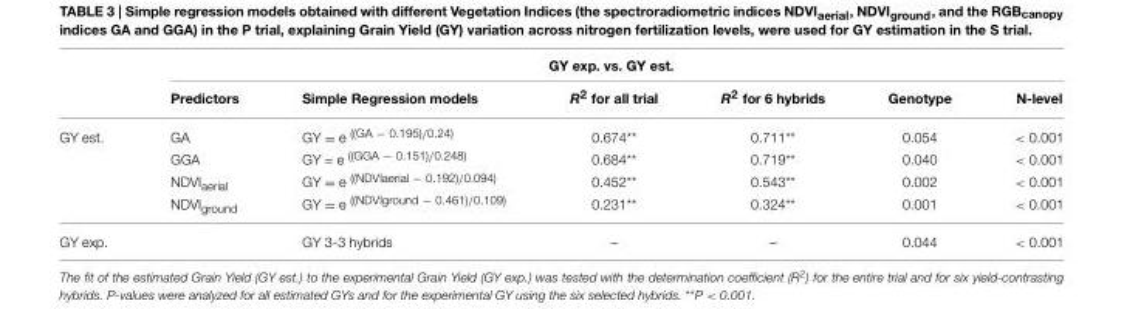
<table><thead><tr><td rowspan="2"></td><td colspan="6">GY exp. vs. GY est.</td></tr><tr><td>Predictors</td><td>Simple Regression models</td><td>R<sup>2</sup> for all trial</td><td>R<sup>2</sup> for 6 hybrids</td><td>Genotype</td><td>N-level</td></tr></thead><tbody><tr><td rowspan="4">GY est.</td><td>GA</td><td>GY = e ((GA − 0.195)/0.24)</td><td>0.674**</td><td>0.711**</td><td>0.054</td><td>&lt; 0.001</td></tr><tr><td>GGA</td><td>GY = e ((GGA − 0.151)/0.248)</td><td>0.684**</td><td>0.719**</td><td>0.040</td><td>&lt; 0.001</td></tr><tr><td>NDVI<sub>aerial</sub></td><td>GY = e ((NDVIaerial − 0.192)/0.094)</td><td>0.452**</td><td>0.543**</td><td>0.002</td><td>&lt; 0.001</td></tr><tr><td>NDVI<sub>ground</sub></td><td>GY = e ((NDVIground − 0.461)/0.109)</td><td>0.231**</td><td>0.324**</td><td>0.001</td><td>&lt; 0.001</td></tr><tr><td>GY exp.</td><td></td><td>GY 3-3 hybrids</td><td>–</td><td>–</td><td>0.044</td><td>&lt; 0.001</td></tr></tbody></table>